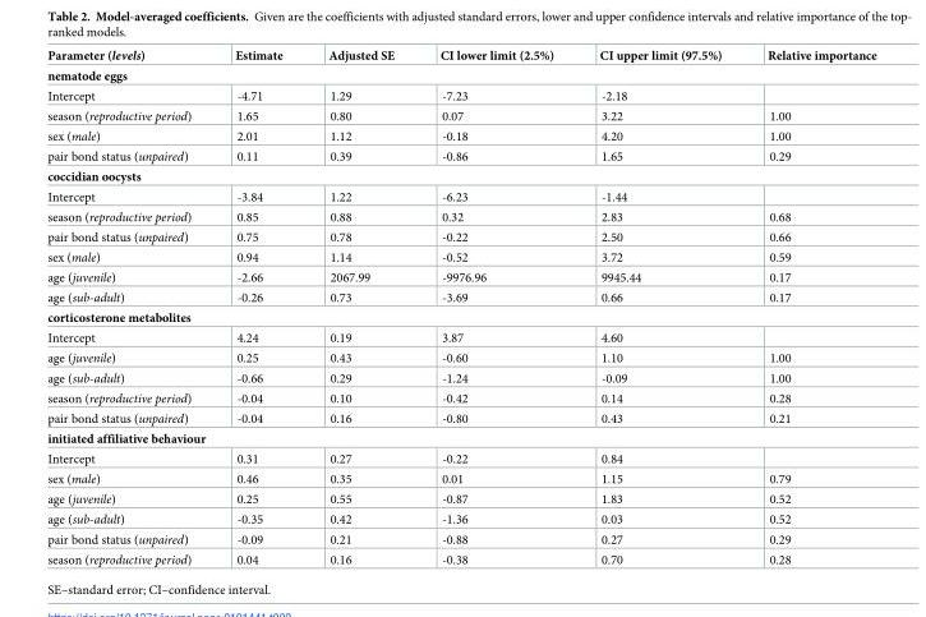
<table><thead><tr><td>Parameter (levels)</td><td>Estimate</td><td>Adjusted SE</td><td>CI lower limit (2.5%)</td><td>CI upper limit (97.5%)</td><td>Relative importance</td></tr></thead><tbody><tr><td colspan="6">nematode eggs</td></tr><tr><td>Intercept</td><td>-4.71</td><td>1.29</td><td>-7.23</td><td>-2.18</td><td></td></tr><tr><td>season (reproductive period)</td><td>1.65</td><td>0.80</td><td>0.07</td><td>3.22</td><td>1.00</td></tr><tr><td>sex (male)</td><td>2.01</td><td>1.12</td><td>-0.18</td><td>4.20</td><td>1.00</td></tr><tr><td>pair bond status (unpaired)</td><td>0.11</td><td>0.39</td><td>-0.86</td><td>1.65</td><td>0.29</td></tr><tr><td colspan="6">coccidian oocysts</td></tr><tr><td>Intercept</td><td>-3.84</td><td>1.22</td><td>-6.23</td><td>-1.44</td><td></td></tr><tr><td>season (reproductive period)</td><td>0.85</td><td>0.88</td><td>0.32</td><td>2.83</td><td>0.68</td></tr><tr><td>pair bond status (unpaired)</td><td>0.75</td><td>0.78</td><td>-0.22</td><td>2.50</td><td>0.66</td></tr><tr><td>sex (male)</td><td>0.94</td><td>1.14</td><td>-0.52</td><td>3.72</td><td>0.59</td></tr><tr><td>age (juvenile)</td><td>-2.66</td><td>2067.99</td><td>-9976.96</td><td>9945.44</td><td>0.17</td></tr><tr><td>age (sub-adult)</td><td>-0.26</td><td>0.73</td><td>-3.69</td><td>0.66</td><td>0.17</td></tr><tr><td colspan="6">corticosterone metabolites</td></tr><tr><td>Intercept</td><td>4.24</td><td>0.19</td><td>3.87</td><td>4.60</td><td></td></tr><tr><td>age (juvenile)</td><td>0.25</td><td>0.43</td><td>-0.60</td><td>1.10</td><td>1.00</td></tr><tr><td>age (sub-adult)</td><td>-0.66</td><td>0.29</td><td>-1.24</td><td>-0.09</td><td>1.00</td></tr><tr><td>season (reproductive period)</td><td>-0.04</td><td>0.10</td><td>-0.42</td><td>0.14</td><td>0.28</td></tr><tr><td>pair bond status (unpaired)</td><td>-0.04</td><td>0.16</td><td>-0.80</td><td>0.43</td><td>0.21</td></tr><tr><td colspan="6">initiated affiliative behaviour</td></tr><tr><td>Intercept</td><td>0.31</td><td>0.27</td><td>-0.22</td><td>0.84</td><td></td></tr><tr><td>sex (male)</td><td>0.46</td><td>0.35</td><td>0.01</td><td>1.15</td><td>0.79</td></tr><tr><td>age (juvenile)</td><td>0.25</td><td>0.55</td><td>-0.87</td><td>1.83</td><td>0.52</td></tr><tr><td>age (sub-adult)</td><td>-0.35</td><td>0.42</td><td>-1.36</td><td>0.03</td><td>0.52</td></tr><tr><td>pair bond status (unpaired)</td><td>-0.09</td><td>0.21</td><td>-0.88</td><td>0.27</td><td>0.29</td></tr><tr><td>season (reproductive period)</td><td>0.04</td><td>0.16</td><td>-0.38</td><td>0.70</td><td>0.28</td></tr></tbody></table>